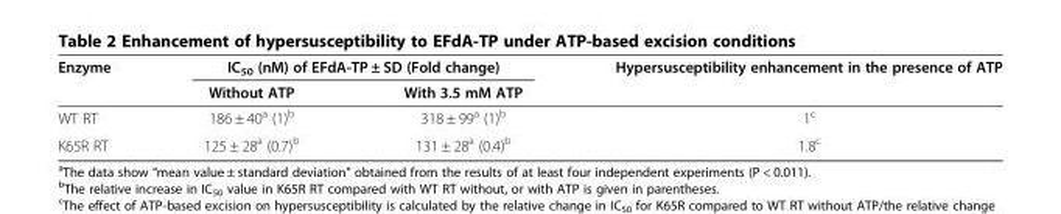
<table><thead><tr><td rowspan="2">Enzyme</td><td colspan="2">IC<sub>50</sub> (nM) of EFdA-TP ± SD (Fold change)</td><td rowspan="2">Hypersusceptibility enhancement in the presence of ATP</td></tr><tr><td>Without ATP</td><td>With 3.5 mM ATP</td></tr></thead><tbody><tr><td>WT RT</td><td>186 ± 40<sup>a</sup> (1)<sup>b</sup></td><td>318 ± 99<sup>a</sup> (1)<sup>b</sup></td><td>1<sup>c</sup></td></tr><tr><td>K65R RT</td><td>125 ± 28<sup>a</sup> (0.7)<sup>b</sup></td><td>131 ± 28<sup>a</sup> (0.4)<sup>b</sup></td><td>1.8<sup>c</sup></td></tr></tbody></table>